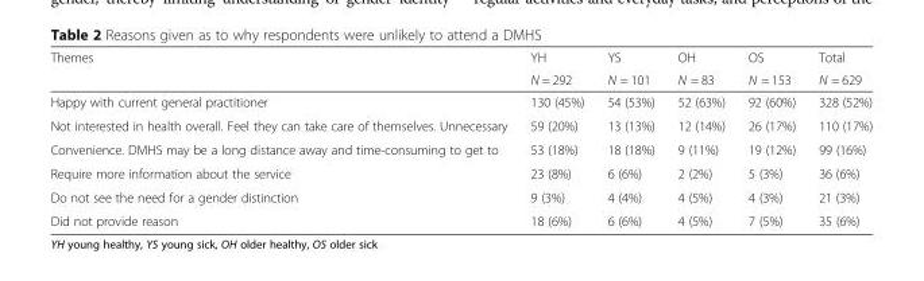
<table><thead><tr><td rowspan="2">Themes</td><td rowspan="2">YH N = 292</td><td rowspan="2">YS N = 101</td><td rowspan="2">OH N = 83</td><td rowspan="2">OS N = 153</td><td rowspan="2">Total N = 629</td></tr><tr></tr></thead><tbody><tr><td>Happy with current general practitioner</td><td>130 (45%)</td><td>54 (53%)</td><td>52 (63%)</td><td>92 (60%)</td><td>328 (52%)</td></tr><tr><td>Not interested in health overall. Feel they can take care of themselves. Unnecessary</td><td>59 (20%)</td><td>13 (13%)</td><td>12 (14%)</td><td>26 (17%)</td><td>110 (17%)</td></tr><tr><td>Convenience. DMHS may be a long distance away and time-consuming to get to</td><td>53 (18%)</td><td>18 (18%)</td><td>9 (11%)</td><td>19 (12%)</td><td>99 (16%)</td></tr><tr><td>Require more information about the service</td><td>23 (8%)</td><td>6 (6%)</td><td>2 (2%)</td><td>5 (3%)</td><td>36 (6%)</td></tr><tr><td>Do not see the need for a gender distinction</td><td>9 (3%)</td><td>4 (4%)</td><td>4 (5%)</td><td>4 (3%)</td><td>21 (3%)</td></tr><tr><td>Did not provide reason</td><td>18 (6%)</td><td>6 (6%)</td><td>4 (5%)</td><td>7 (5%)</td><td>35 (6%)</td></tr></tbody></table>